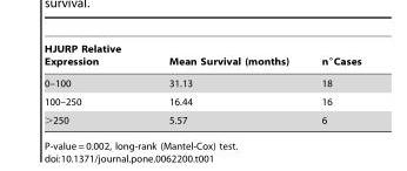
<table><thead><tr><td>HJURP Relative Expression</td><td>Mean Survival (months)</td><td>n°Cases</td></tr></thead><tbody><tr><td>0–100</td><td>31.13</td><td>18</td></tr><tr><td>100–250</td><td>16.44</td><td>16</td></tr><tr><td>&gt;250</td><td>5.57</td><td>6</td></tr></tbody></table>